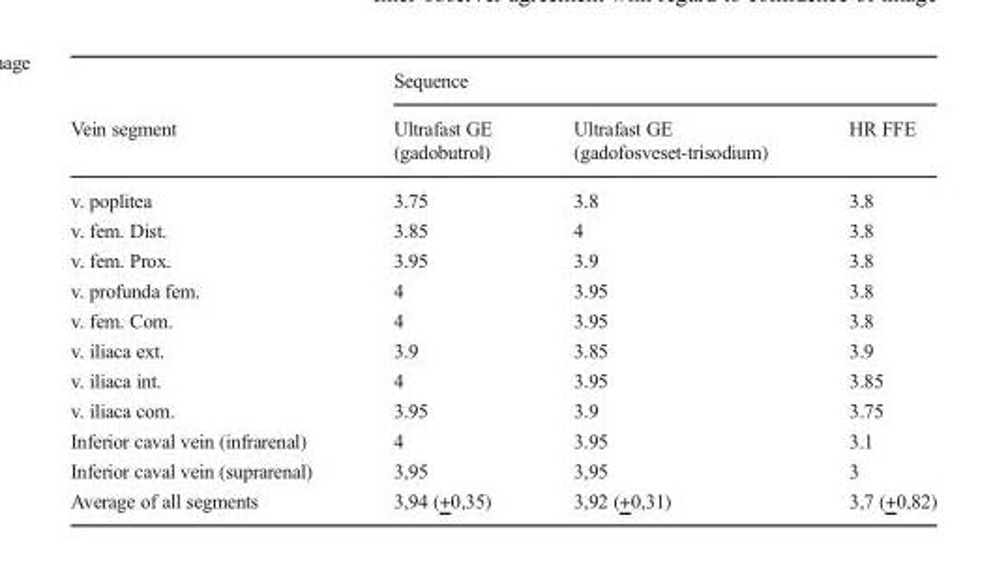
<table><thead><tr><td rowspan="2">Vein segment</td><td colspan="3">Sequence</td></tr><tr><td>Ultrafast GE (gadobutrol)</td><td>Ultrafast GE (gadofosveset-trisodium)</td><td>HR FFE</td></tr></thead><tbody><tr><td>v. poplitea</td><td>3.75</td><td>3.8</td><td>3.8</td></tr><tr><td>v. fem. Dist.</td><td>3.85</td><td>4</td><td>3.8</td></tr><tr><td>v. fem. Prox.</td><td>3.95</td><td>3.9</td><td>3.8</td></tr><tr><td>v. profunda fem.</td><td>4</td><td>3.95</td><td>3.8</td></tr><tr><td>v. fem. Com.</td><td>4</td><td>3.95</td><td>3.8</td></tr><tr><td>v. iliaca ext.</td><td>3.9</td><td>3.85</td><td>3.9</td></tr><tr><td>v. iliaca int.</td><td>4</td><td>3.95</td><td>3.85</td></tr><tr><td>v. iliaca com.</td><td>3.95</td><td>3.9</td><td>3.75</td></tr><tr><td>Inferior caval vein (infrarenal)</td><td>4</td><td>3.95</td><td>3.1</td></tr><tr><td>Inferior caval vein (suprarenal)</td><td>3,95</td><td>3,95</td><td>3</td></tr><tr><td>Average of all segments</td><td>3,94 (+0,35)</td><td>3,92 (+0,31)</td><td>3,7 (+0,82)</td></tr></tbody></table>